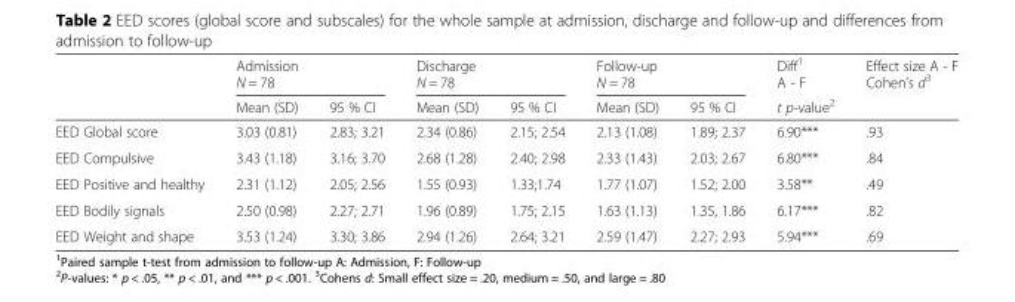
<table><thead><tr><td rowspan="2"></td><td colspan="2">Admission N = 78</td><td colspan="2">Discharge N = 78</td><td colspan="2">Follow-up N = 78</td><td rowspan="2">Diff<sup>1</sup> A - F t p-value<sup>2</sup></td><td rowspan="2">Effect size A - F Cohen’s d<sup>3</sup></td></tr><tr><td>Mean (SD)</td><td>95 % CI</td><td>Mean (SD)</td><td>95 % CI</td><td>Mean (SD)</td><td>95 % CI</td></tr></thead><tbody><tr><td>EED Global score</td><td>3.03 (0.81)</td><td>2.83; 3.21</td><td>2.34 (0.86)</td><td>2.15; 2.54</td><td>2.13 (1.08)</td><td>1.89; 2.37</td><td>6.90***</td><td>.93</td></tr><tr><td>EED Compulsive</td><td>3.43 (1.18)</td><td>3.16; 3.70</td><td>2.68 (1.28)</td><td>2.40; 2.98</td><td>2.33 (1.43)</td><td>2.03; 2.67</td><td>6.80***</td><td>.84</td></tr><tr><td>EED Positive and healthy</td><td>2.31 (1.12)</td><td>2.05; 2.56</td><td>1.55 (0.93)</td><td>1.33;1.74</td><td>1.77 (1.07)</td><td>1.52; 2.00</td><td>3.58**</td><td>.49</td></tr><tr><td>EED Bodily signals</td><td>2.50 (0.98)</td><td>2.27; 2.71</td><td>1.96 (0.89)</td><td>1.75; 2.15</td><td>1.63 (1.13)</td><td>1.35, 1.86</td><td>6.17***</td><td>.82</td></tr><tr><td>EED Weight and shape</td><td>3.53 (1.24)</td><td>3.30; 3.86</td><td>2.94 (1.26)</td><td>2.64; 3.21</td><td>2.59 (1.47)</td><td>2.27; 2.93</td><td>5.94***</td><td>.69</td></tr></tbody></table>